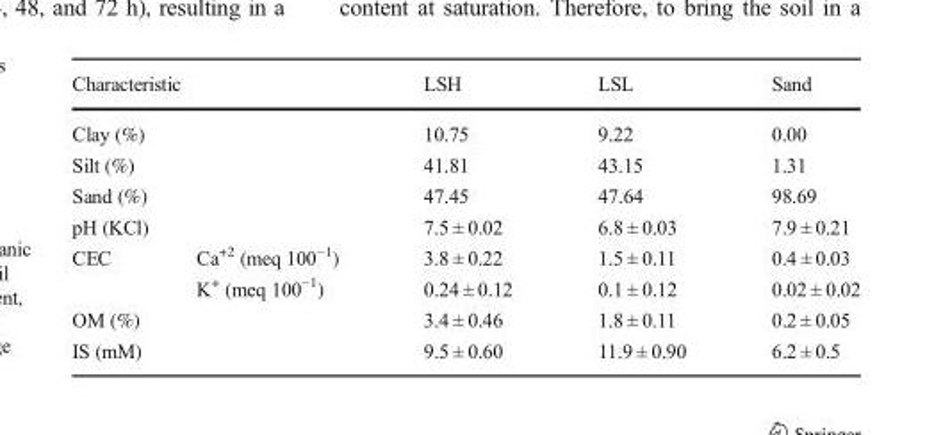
<table><thead><tr><td colspan="2">Characteristic</td><td>LSH</td><td>LSL</td><td>Sand</td></tr></thead><tbody><tr><td colspan="2">Clay (%)</td><td>10.75</td><td>9.22</td><td>0.00</td></tr><tr><td colspan="2">Silt (%)</td><td>41.81</td><td>43.15</td><td>1.31</td></tr><tr><td colspan="2">Sand (%)</td><td>47.45</td><td>47.64</td><td>98.69</td></tr><tr><td colspan="2">pH (KCl)</td><td>7.5 ± 0.02</td><td>6.8 ± 0.03</td><td>7.9 ± 0.21</td></tr><tr><td rowspan="2">CEC</td><td>Ca<sup>+2</sup> (meq 100<sup>−1</sup>)</td><td>3.8 ± 0.22</td><td>1.5 ± 0.11</td><td>0.4 ± 0.03</td></tr><tr><td>K<sup>+</sup> (meq 100<sup>−1</sup>)</td><td>0.24 ± 0.12</td><td>0.1 ± 0.12</td><td>0.02 ± 0.02</td></tr><tr><td colspan="2">OM (%)</td><td>3.4 ± 0.46</td><td>1.8 ± 0.11</td><td>0.2 ± 0.05</td></tr><tr><td colspan="2">IS (mM)</td><td>9.5 ± 0.60</td><td>11.9 ± 0.90</td><td>6.2 ± 0.5</td></tr></tbody></table>